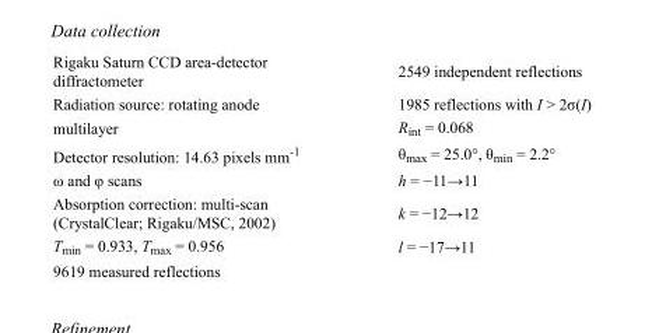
<table><tbody><tr><td>Rigaku Saturn CCD area-detector diffractometer</td><td>2549 independent reflections</td></tr><tr><td>Radiation source: rotating anode</td><td>1985 reflections with I &gt; 2σ(I)</td></tr><tr><td>multilayer</td><td>R<sub>int</sub> = 0.068</td></tr><tr><td>Detector resolution: 14.63 pixels mm<sup>-1</sup></td><td>θ<sub>max</sub> = 25.0°, θ<sub>min</sub> = 2.2°</td></tr><tr><td>ω and φ scans</td><td>h = −11→11</td></tr><tr><td>Absorption correction: multi-scan (CrystalClear; Rigaku/MSC, 2002)</td><td>k = −12→12</td></tr><tr><td>T<sub>min</sub> = 0.933, T<sub>max</sub> = 0.956</td><td>l = −17→11</td></tr><tr><td>9619 measured reflections</td><td></td></tr></tbody></table>